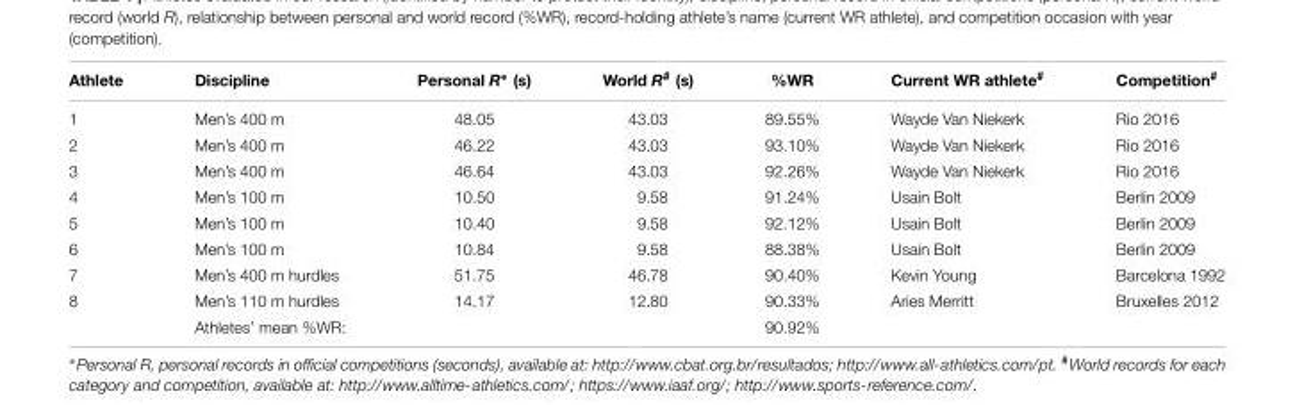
<table><thead><tr><td>Athlete</td><td>Discipline</td><td>Personal R∗ (s)</td><td>World R<sup>#</sup> (s)</td><td>%WR</td><td>Current WR athlete<sup>#</sup></td><td>Competition<sup>#</sup></td></tr></thead><tbody><tr><td>1</td><td>Men’s 400 m</td><td>48.05</td><td>43.03</td><td>89.55%</td><td>Wayde Van Niekerk</td><td>Rio 2016</td></tr><tr><td>2</td><td>Men’s 400 m</td><td>46.22</td><td>43.03</td><td>93.10%</td><td>Wayde Van Niekerk</td><td>Rio 2016</td></tr><tr><td>3</td><td>Men’s 400 m</td><td>46.64</td><td>43.03</td><td>92.26%</td><td>Wayde Van Niekerk</td><td>Rio 2016</td></tr><tr><td>4</td><td>Men’s 100 m</td><td>10.50</td><td>9.58</td><td>91.24%</td><td>Usain Bolt</td><td>Berlin 2009</td></tr><tr><td>5</td><td>Men’s 100 m</td><td>10.40</td><td>9.58</td><td>92.12%</td><td>Usain Bolt</td><td>Berlin 2009</td></tr><tr><td>6</td><td>Men’s 100 m</td><td>10.84</td><td>9.58</td><td>88.38%</td><td>Usain Bolt</td><td>Berlin 2009</td></tr><tr><td>7</td><td>Men’s 400 m hurdles</td><td>51.75</td><td>46.78</td><td>90.40%</td><td>Kevin Young</td><td>Barcelona 1992</td></tr><tr><td rowspan="2">8</td><td>Men’s 110 m hurdles</td><td>14.17</td><td>12.80</td><td>90.33%</td><td>Aries Merritt</td><td>Bruxelles 2012</td></tr><tr><td>Athletes’ mean %WR:</td><td></td><td></td><td>90.92%</td><td></td><td></td></tr></tbody></table>